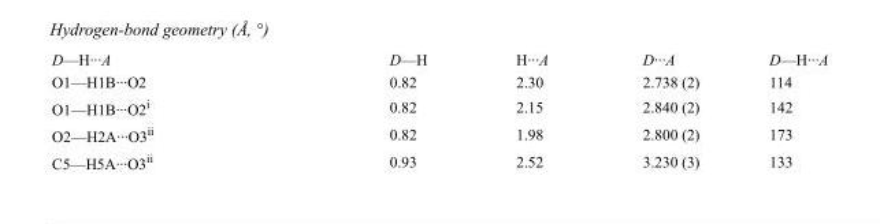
<table><tbody><tr><td>D—H···A</td><td>D—H</td><td>H···A</td><td>D···A</td><td>D—H···A</td></tr><tr><td>O1—H1B···O2</td><td>0.82</td><td>2.30</td><td>2.738 (2)</td><td>114</td></tr><tr><td>O1—H1B···O2<sup>i</sup></td><td>0.82</td><td>2.15</td><td>2.840 (2)</td><td>142</td></tr><tr><td>O2—H2A···O3<sup>ii</sup></td><td>0.82</td><td>1.98</td><td>2.800 (2)</td><td>173</td></tr><tr><td>C5—H5A···O3<sup>ii</sup></td><td>0.93</td><td>2.52</td><td>3.230 (3)</td><td>133</td></tr></tbody></table>